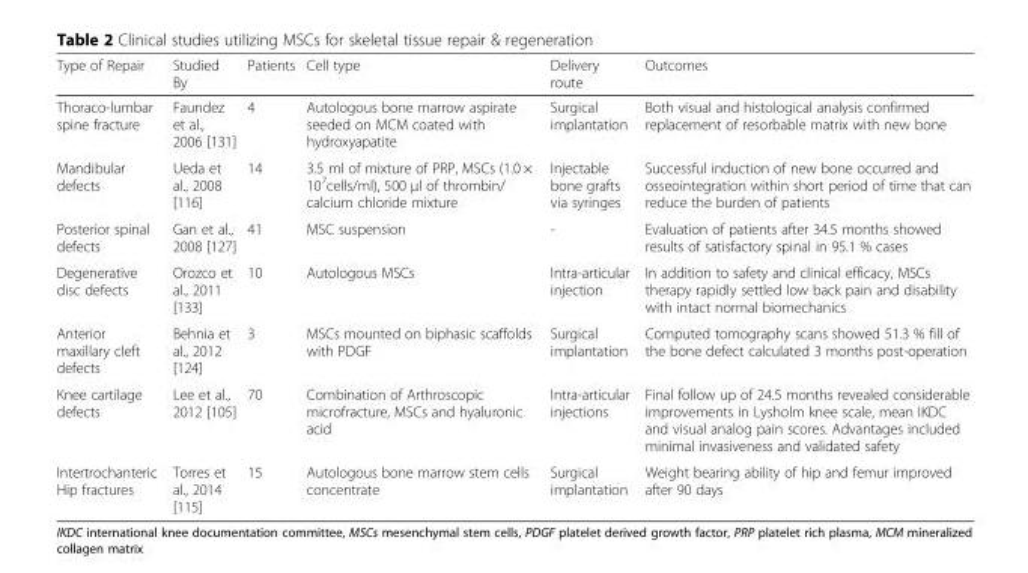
<table><thead><tr><td>Type of Repair</td><td>Studied By</td><td>Patients</td><td>Cell type</td><td>Delivery route</td><td>Outcomes</td></tr></thead><tbody><tr><td>Thoraco-lumbar spine fracture</td><td>Faundez et al., 2006 [131]</td><td>4</td><td>Autologous bone marrow aspirate seeded on MCM coated with hydroxyapatite</td><td>Surgical implantation</td><td>Both visual and histological analysis confirmed replacement of resorbable matrix with new bone</td></tr><tr><td>Mandibular defects</td><td>Ueda et al., 2008 [116]</td><td>14</td><td>3.5 ml of mixture of PRP, MSCs (1.0 × 10<sup>7</sup>cells/ml), 500 μl of thrombin/ calcium chloride mixture</td><td>Injectable bone grafts via syringes</td><td>Successful induction of new bone occurred and osseointegration within short period of time that can reduce the burden of patients</td></tr><tr><td>Posterior spinal defects</td><td>Gan et al., 2008 [127]</td><td>41</td><td>MSC suspension</td><td>-</td><td>Evaluation of patients after 34.5 months showed results of satisfactory spinal in 95.1 % cases</td></tr><tr><td>Degenerative disc defects</td><td>Orozco et al., 2011 [133]</td><td>10</td><td>Autologous MSCs</td><td>Intra-articular injection</td><td>In addition to safety and clinical efficacy, MSCs therapy rapidly settled low back pain and disability with intact normal biomechanics</td></tr><tr><td>Anterior maxillary cleft defects</td><td>Behnia et al., 2012 [124]</td><td>3</td><td>MSCs mounted on biphasic scaffolds with PDGF</td><td>Surgical implantation</td><td>Computed tomography scans showed 51.3 % fill of the bone defect calculated 3 months post-operation</td></tr><tr><td>Knee cartilage defects</td><td>Lee et al., 2012 [105]</td><td>70</td><td>Combination of Arthroscopic microfracture, MSCs and hyaluronic acid</td><td>Intra-articular injections</td><td>Final follow up of 24.5 months revealed considerable improvements in Lysholm knee scale, mean IKDC and visual analog pain scores. Advantages included minimal invasiveness and validated safety</td></tr><tr><td>Intertrochanteric Hip fractures</td><td>Torres et al., 2014 [115]</td><td>15</td><td>Autologous bone marrow stem cells concentrate</td><td>Surgical implantation</td><td>Weight bearing ability of hip and femur improved after 90 days</td></tr></tbody></table>